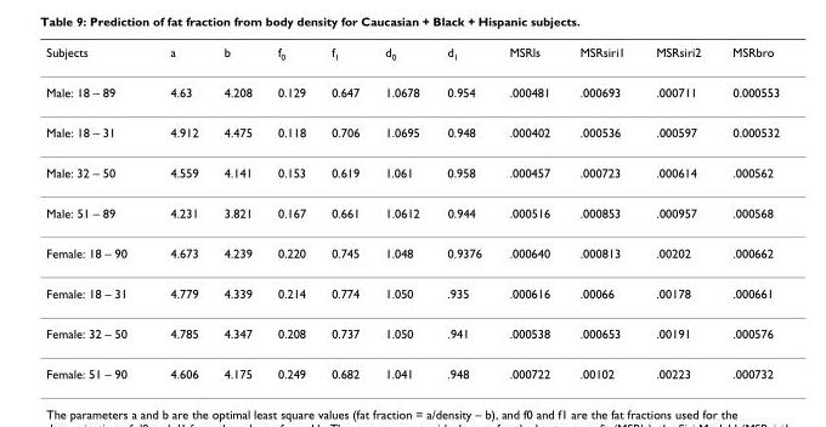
<table><thead><tr><td>Subjects</td><td>a</td><td>b</td><td>f<sub>0</sub></td><td>f<sub>1</sub></td><td>d<sub>0</sub></td><td>d<sub>1</sub></td><td>MSRls</td><td>MSRsiri1</td><td>MSRsiri2</td><td>MSRbro</td></tr></thead><tbody><tr><td>Male: 18 – 89</td><td>4.63</td><td>4.208</td><td>0.129</td><td>0.647</td><td>1.0678</td><td>0.954</td><td>.000481</td><td>.000693</td><td>.000711</td><td>0.000553</td></tr><tr><td>Male: 18 – 31</td><td>4.912</td><td>4.475</td><td>0.118</td><td>0.706</td><td>1.0695</td><td>0.948</td><td>.000402</td><td>.000536</td><td>.000597</td><td>0.000532</td></tr><tr><td>Male: 32 – 50</td><td>4.559</td><td>4.141</td><td>0.153</td><td>0.619</td><td>1.061</td><td>0.958</td><td>.000457</td><td>.000723</td><td>.000614</td><td>.000562</td></tr><tr><td>Male: 51 – 89</td><td>4.231</td><td>3.821</td><td>0.167</td><td>0.661</td><td>1.0612</td><td>0.944</td><td>.000516</td><td>.000853</td><td>.000957</td><td>.000568</td></tr><tr><td>Female: 18 – 90</td><td>4.673</td><td>4.239</td><td>0.220</td><td>0.745</td><td>1.048</td><td>0.9376</td><td>.000640</td><td>.000813</td><td>.00202</td><td>.000662</td></tr><tr><td>Female: 18 – 31</td><td>4.779</td><td>4.339</td><td>0.214</td><td>0.774</td><td>1.050</td><td>.935</td><td>.000616</td><td>.00066</td><td>.00178</td><td>.000661</td></tr><tr><td>Female: 32 – 50</td><td>4.785</td><td>4.347</td><td>0.208</td><td>0.737</td><td>1.050</td><td>.941</td><td>.000538</td><td>.000653</td><td>.00191</td><td>.000576</td></tr><tr><td>Female: 51 – 90</td><td>4.606</td><td>4.175</td><td>0.249</td><td>0.682</td><td>1.041</td><td>.948</td><td>.000722</td><td>.00102</td><td>.00223</td><td>.000732</td></tr></tbody></table>